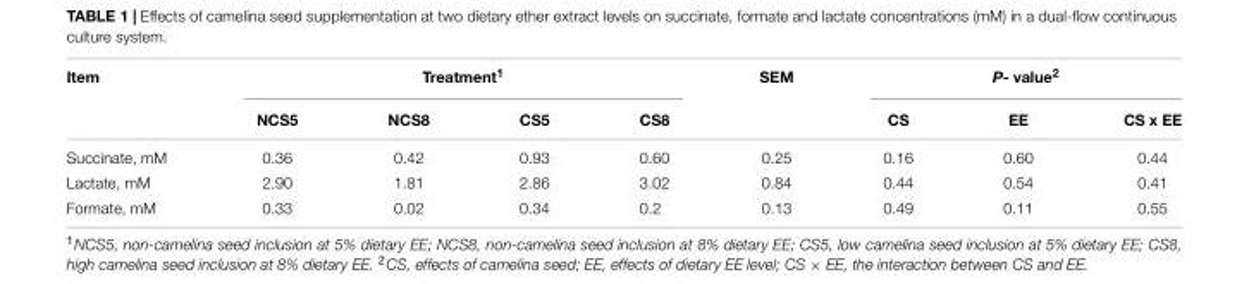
<table><thead><tr><td rowspan="2">Item</td><td colspan="4">Treatment<sup>1</sup></td><td rowspan="2">SEM</td><td colspan="3">P- value<sup>2</sup></td></tr><tr><td>NCS5</td><td>NCS8</td><td>CS5</td><td>CS8</td><td>CS</td><td>EE</td><td>CS x EE</td></tr></thead><tbody><tr><td>Succinate, mM</td><td>0.36</td><td>0.42</td><td>0.93</td><td>0.60</td><td>0.25</td><td>0.16</td><td>0.60</td><td>0.44</td></tr><tr><td>Lactate, mM</td><td>2.90</td><td>1.81</td><td>2.86</td><td>3.02</td><td>0.84</td><td>0.44</td><td>0.54</td><td>0.41</td></tr><tr><td>Formate, mM</td><td>0.33</td><td>0.02</td><td>0.34</td><td>0.2</td><td>0.13</td><td>0.49</td><td>0.11</td><td>0.55</td></tr></tbody></table>